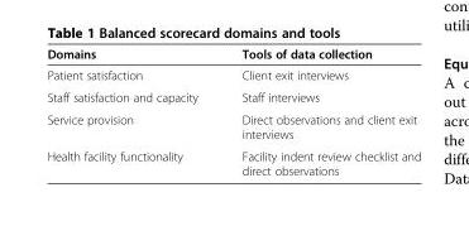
<table><thead><tr><td>Domains</td><td>Tools of data collection</td></tr></thead><tbody><tr><td>Patient satisfaction</td><td>Client exit interviews</td></tr><tr><td>Staff satisfaction and capacity</td><td>Staff interviews</td></tr><tr><td>Service provision</td><td>Direct observations and client exit interviews</td></tr><tr><td>Health facility functionality</td><td>Facility indent review checklist and direct observations</td></tr></tbody></table>